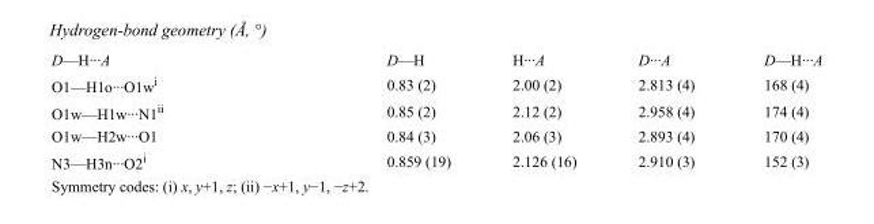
<table><tbody><tr><td>D—H···A</td><td>D—H</td><td>H···A</td><td>D···A</td><td>D—H···A</td></tr><tr><td>O1—H1o···O1w<sup>i</sup></td><td>0.83 (2)</td><td>2.00 (2)</td><td>2.813 (4)</td><td>168 (4)</td></tr><tr><td>O1w—H1w···N1<sup>ii</sup></td><td>0.85 (2)</td><td>2.12 (2)</td><td>2.958 (4)</td><td>174 (4)</td></tr><tr><td>O1w—H2w···O1</td><td>0.84 (3)</td><td>2.06 (3)</td><td>2.893 (4)</td><td>170 (4)</td></tr><tr><td>N3—H3n···O2<sup>i</sup></td><td>0.859 (19)</td><td>2.126 (16)</td><td>2.910 (3)</td><td>152 (3)</td></tr></tbody></table>